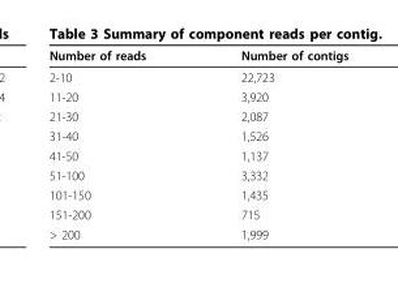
<table><thead><tr><td>Number of reads</td><td>Number of contigs</td></tr></thead><tbody><tr><td>2-10</td><td>22,723</td></tr><tr><td>11-20</td><td>3,920</td></tr><tr><td>21-30</td><td>2,087</td></tr><tr><td>31-40</td><td>1,526</td></tr><tr><td>41-50</td><td>1,137</td></tr><tr><td>51-100</td><td>3,332</td></tr><tr><td>101-150</td><td>1,435</td></tr><tr><td>151-200</td><td>715</td></tr><tr><td>&gt; 200</td><td>1,999</td></tr></tbody></table>